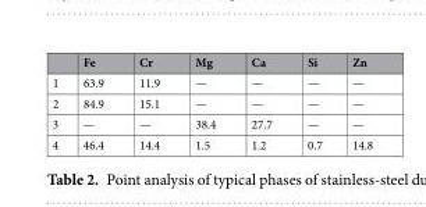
<table><thead><tr><td></td><td>Fe</td><td>Cr</td><td>Mg</td><td>Ca</td><td>Si</td><td>Zn</td></tr></thead><tbody><tr><td>1</td><td>63.9</td><td>11.9</td><td>—</td><td>—</td><td>—</td><td>—</td></tr><tr><td>2</td><td>84.9</td><td>15.1</td><td>—</td><td>—</td><td>—</td><td>—</td></tr><tr><td>3</td><td>—</td><td>—</td><td>38.4</td><td>27.7</td><td>—</td><td>—</td></tr><tr><td>4</td><td>46.4</td><td>14.4</td><td>1.5</td><td>1.2</td><td>0.7</td><td>14.8</td></tr></tbody></table>